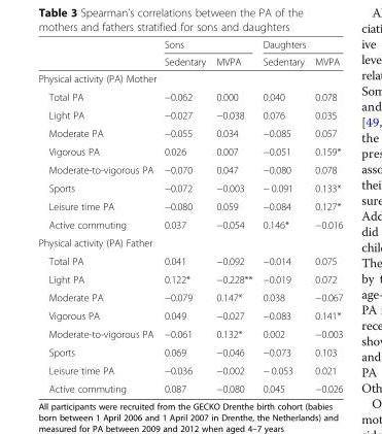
<table><thead><tr><td rowspan="2"></td><td colspan="2">Sons</td><td colspan="2">Daughters</td></tr><tr><td>Sedentary</td><td>MVPA</td><td>Sedentary</td><td>MVPA</td></tr></thead><tbody><tr><td colspan="5">Physical activity (PA) Mother</td></tr><tr><td>Total PA</td><td>−0.062</td><td>0.000</td><td>0.040</td><td>0.078</td></tr><tr><td>Light PA</td><td>−0.027</td><td>−0.038</td><td>0.076</td><td>0.035</td></tr><tr><td>Moderate PA</td><td>−0.055</td><td>0.034</td><td>−0.085</td><td>0.057</td></tr><tr><td>Vigorous PA</td><td>0.026</td><td>0.007</td><td>−0.051</td><td>0.159*</td></tr><tr><td>Moderate-to-vigorous PA</td><td>−0.070</td><td>0.047</td><td>−0.080</td><td>0.078</td></tr><tr><td>Sports</td><td>−0.072</td><td>−0.003</td><td>− 0.091</td><td>0.133*</td></tr><tr><td>Leisure time PA</td><td>−0.080</td><td>0.059</td><td>−0.084</td><td>0.127*</td></tr><tr><td>Active commuting</td><td>0.037</td><td>−0.054</td><td>0.146*</td><td>−0.016</td></tr><tr><td colspan="5">Physical activity (PA) Father</td></tr><tr><td>Total PA</td><td>0.041</td><td>−0.092</td><td>−0.014</td><td>0.075</td></tr><tr><td>Light PA</td><td>0.122*</td><td>−0.228**</td><td>−0.019</td><td>0.072</td></tr><tr><td>Moderate PA</td><td>−0.079</td><td>0.147*</td><td>0.038</td><td>−0.067</td></tr><tr><td>Vigorous PA</td><td>0.049</td><td>−0.027</td><td>−0.083</td><td>0.141*</td></tr><tr><td>Moderate-to-vigorous PA</td><td>−0.061</td><td>0.132*</td><td>0.002</td><td>−0.003</td></tr><tr><td>Sports</td><td>0.069</td><td>−0.046</td><td>−0.073</td><td>0.103</td></tr><tr><td>Leisure time PA</td><td>−0.036</td><td>−0.002</td><td>− 0.053</td><td>0.021</td></tr><tr><td>Active commuting</td><td>0.087</td><td>−0.080</td><td>0.045</td><td>−0.026</td></tr></tbody></table>